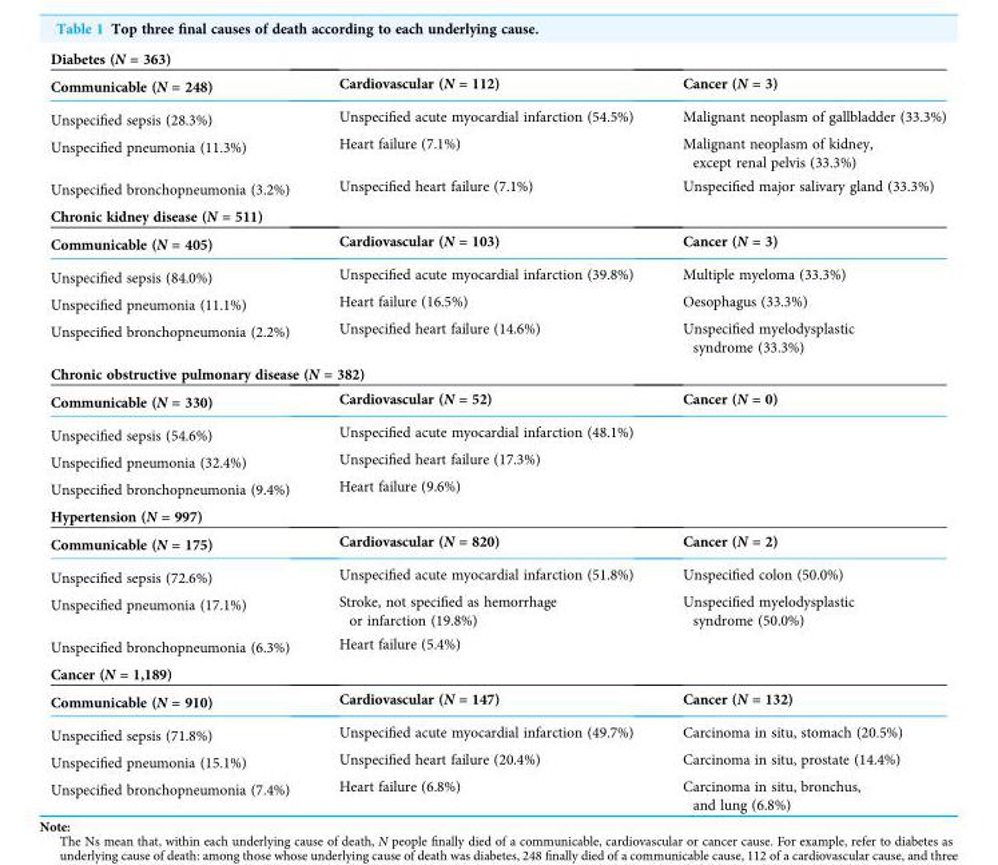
<table><tbody><tr><td colspan="3">Diabetes (N = 363)</td></tr><tr><td>Communicable (N = 248)</td><td>Cardiovascular (N = 112)</td><td>Cancer (N = 3)</td></tr><tr><td>Unspecified sepsis (28.3%)</td><td>Unspecified acute myocardial infarction (54.5%)</td><td>Malignant neoplasm of gallbladder (33.3%)</td></tr><tr><td>Unspecified pneumonia (11.3%)</td><td>Heart failure (7.1%)</td><td>Malignant neoplasm of kidney, except renal pelvis (33.3%)</td></tr><tr><td>Unspecified bronchopneumonia (3.2%)</td><td>Unspecified heart failure (7.1%)</td><td>Unspecified major salivary gland (33.3%)</td></tr><tr><td colspan="3">Chronic kidney disease (N = 511)</td></tr><tr><td>Communicable (N = 405)</td><td>Cardiovascular (N = 103)</td><td>Cancer (N = 3)</td></tr><tr><td>Unspecified sepsis (84.0%)</td><td>Unspecified acute myocardial infarction (39.8%)</td><td>Multiple myeloma (33.3%)</td></tr><tr><td>Unspecified pneumonia (11.1%)</td><td>Heart failure (16.5%)</td><td>Oesophagus (33.3%)</td></tr><tr><td>Unspecified bronchopneumonia (2.2%)</td><td>Unspecified heart failure (14.6%)</td><td>Unspecified myelodysplastic syndrome (33.3%)</td></tr><tr><td colspan="3">Chronic obstructive pulmonary disease (N = 382)</td></tr><tr><td>Communicable (N = 330)</td><td>Cardiovascular (N = 52)</td><td>Cancer (N = 0)</td></tr><tr><td>Unspecified sepsis (54.6%)</td><td>Unspecified acute myocardial infarction (48.1%)</td><td></td></tr><tr><td>Unspecified pneumonia (32.4%)</td><td>Unspecified heart failure (17.3%)</td><td></td></tr><tr><td>Unspecified bronchopneumonia (9.4%)</td><td>Heart failure (9.6%)</td><td></td></tr><tr><td colspan="3">Hypertension (N = 997)</td></tr><tr><td>Communicable (N = 175)</td><td>Cardiovascular (N = 820)</td><td>Cancer (N = 2)</td></tr><tr><td>Unspecified sepsis (72.6%)</td><td>Unspecified acute myocardial infarction (51.8%)</td><td>Unspecified colon (50.0%)</td></tr><tr><td>Unspecified pneumonia (17.1%)</td><td>Stroke, not specified as hemorrhage or infarction (19.8%)</td><td>Unspecified myelodysplastic syndrome (50.0%)</td></tr><tr><td>Unspecified bronchopneumonia (6.3%)</td><td>Heart failure (5.4%)</td><td></td></tr><tr><td colspan="3">Cancer (N = 1,189)</td></tr><tr><td>Communicable (N = 910)</td><td>Cardiovascular (N = 147)</td><td>Cancer (N = 132)</td></tr><tr><td>Unspecified sepsis (71.8%)</td><td>Unspecified acute myocardial infarction (49.7%)</td><td>Carcinoma in situ, stomach (20.5%)</td></tr><tr><td>Unspecified pneumonia (15.1%)</td><td>Unspecified heart failure (20.4%)</td><td>Carcinoma in situ, prostate (14.4%)</td></tr><tr><td>Unspecified bronchopneumonia (7.4%)</td><td>Heart failure (6.8%)</td><td>Carcinoma in situ, bronchus, and lung (6.8%)</td></tr></tbody></table>